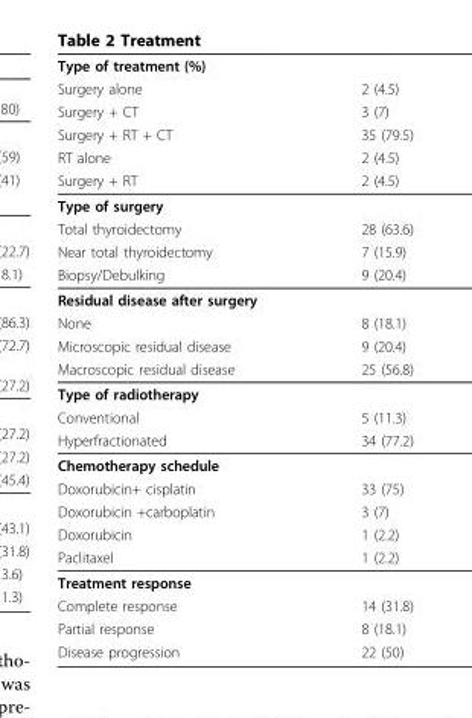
<table><thead><tr><td rowspan="6">Type of treatment (%) Surgery alone Surgery + CT Surgery + RT + CT RT alone Surgery + RT</td><td rowspan="6">2 (4.5) 3 (7) 35 (79.5) 2 (4.5) 2 (4.5)</td></tr><tr></tr><tr></tr><tr></tr><tr></tr><tr></tr></thead><tbody><tr><td colspan="2">Type of surgery</td></tr><tr><td>Total thyroidectomy</td><td>28 (63.6)</td></tr><tr><td>Near total thyroidectomy</td><td>7 (15.9)</td></tr><tr><td>Biopsy/Debulking</td><td>9 (20.4)</td></tr><tr><td colspan="2">Residual disease after surgery</td></tr><tr><td>None</td><td>8 (18.1)</td></tr><tr><td>Microscopic residual disease</td><td>9 (20.4)</td></tr><tr><td>Macroscopic residual disease</td><td>25 (56.8)</td></tr><tr><td colspan="2">Type of radiotherapy</td></tr><tr><td>Conventional</td><td>5 (11.3)</td></tr><tr><td>Hyperfractionated</td><td>34 (77.2)</td></tr><tr><td colspan="2">Chemotherapy schedule</td></tr><tr><td>Doxorubicin+ cisplatin</td><td>33 (75)</td></tr><tr><td>Doxorubicin +carboplatin</td><td>3 (7)</td></tr><tr><td>Doxorubicin</td><td>1 (2.2)</td></tr><tr><td>Paclitaxel</td><td>1 (2.2)</td></tr><tr><td colspan="2">Treatment response</td></tr><tr><td>Complete response</td><td>14 (31.8)</td></tr><tr><td>Partial response</td><td>8 (18.1)</td></tr><tr><td>Disease progression</td><td>22 (50)</td></tr></tbody></table>